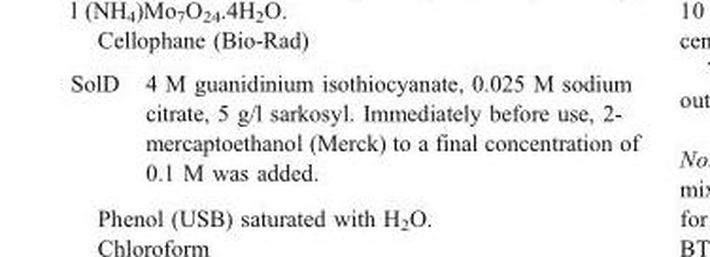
<table><tbody><tr><td>SolD</td><td>4 M guanidinium isothiocyanate, 0.025 M sodium citrate, 5 g/l sarkosyl. Immediately before use, 2- mercaptoethanol (Merck) to a final concentration of 0.1 M was added.</td></tr></tbody></table>